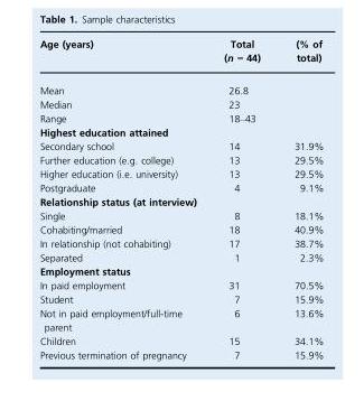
<table><thead><tr><td>Age (years)</td><td>Total (n = 44)</td><td>(% of total)</td></tr></thead><tbody><tr><td>Mean</td><td>26.8</td><td></td></tr><tr><td>Median</td><td>23</td><td></td></tr><tr><td>Range</td><td>18–43</td><td></td></tr><tr><td colspan="3">Highest education attained</td></tr><tr><td>Secondary school</td><td>14</td><td>31.9%</td></tr><tr><td>Further education (e.g. college)</td><td>13</td><td>29.5%</td></tr><tr><td>Higher education (i.e. university)</td><td>13</td><td>29.5%</td></tr><tr><td>Postgraduate</td><td>4</td><td>9.1%</td></tr><tr><td colspan="3">Relationship status (at interview)</td></tr><tr><td>Single</td><td>8</td><td>18.1%</td></tr><tr><td>Cohabiting/married</td><td>18</td><td>40.9%</td></tr><tr><td>In relationship (not cohabiting)</td><td>17</td><td>38.7%</td></tr><tr><td>Separated</td><td>1</td><td>2.3%</td></tr><tr><td colspan="3">Employment status</td></tr><tr><td>In paid employment</td><td>31</td><td>70.5%</td></tr><tr><td>Student</td><td>7</td><td>15.9%</td></tr><tr><td>Not in paid employment/full-time parent</td><td>6</td><td>13.6%</td></tr><tr><td>Children</td><td>15</td><td>34.1%</td></tr><tr><td>Previous termination of pregnancy</td><td>7</td><td>15.9%</td></tr></tbody></table>